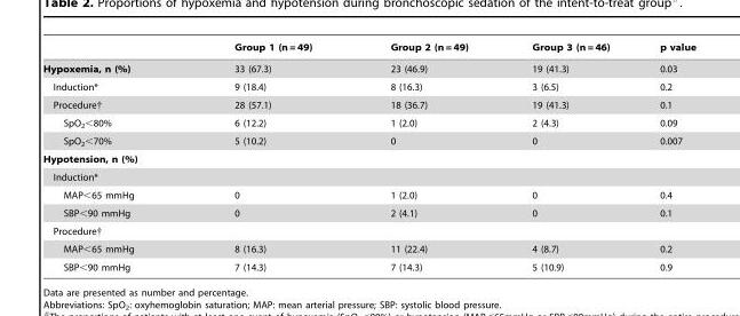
<table><thead><tr><td></td><td>Group 1 (n = 49)</td><td>Group 2 (n = 49)</td><td>Group 3 (n = 46)</td><td>p value</td></tr></thead><tbody><tr><td>Hypoxemia, n (%)</td><td>33 (67.3)</td><td>23 (46.9)</td><td>19 (41.3)</td><td>0.03</td></tr><tr><td>Induction*</td><td>9 (18.4)</td><td>8 (16.3)</td><td>3 (6.5)</td><td>0.2</td></tr><tr><td>Procedure†</td><td>28 (57.1)</td><td>18 (36.7)</td><td>19 (41.3)</td><td>0.1</td></tr><tr><td>SpO<sub>2</sub>&lt;80%</td><td>6 (12.2)</td><td>1 (2.0)</td><td>2 (4.3)</td><td>0.09</td></tr><tr><td>SpO<sub>2</sub>&lt;70%</td><td>5 (10.2)</td><td>0</td><td>0</td><td>0.007</td></tr><tr><td colspan="5">Hypotension, n (%)</td></tr><tr><td colspan="5">Induction*</td></tr><tr><td>MAP&lt;65 mmHg</td><td>0</td><td>1 (2.0)</td><td>0</td><td>0.4</td></tr><tr><td>SBP&lt;90 mmHg</td><td>0</td><td>2 (4.1)</td><td>0</td><td>0.1</td></tr><tr><td colspan="5">Procedure†</td></tr><tr><td>MAP&lt;65 mmHg</td><td>8 (16.3)</td><td>11 (22.4)</td><td>4 (8.7)</td><td>0.2</td></tr><tr><td>SBP&lt;90 mmHg</td><td>7 (14.3)</td><td>7 (14.3)</td><td>5 (10.9)</td><td>0.9</td></tr></tbody></table>